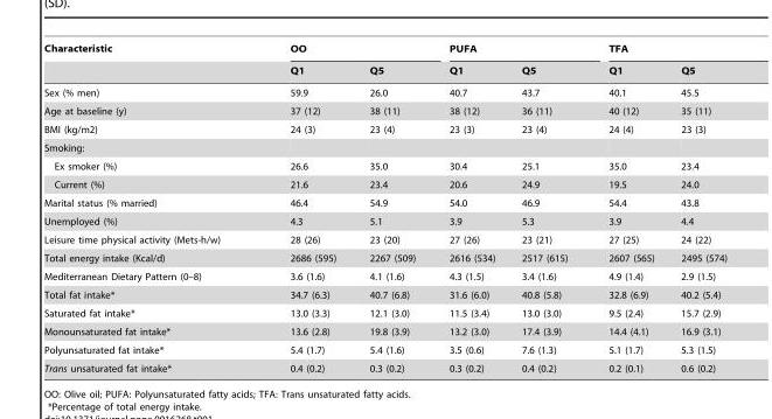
<table><thead><tr><td rowspan="2">Characteristic</td><td colspan="2">OO</td><td colspan="2">PUFA</td><td colspan="2">TFA</td></tr><tr><td>Q1</td><td>Q5</td><td>Q1</td><td>Q5</td><td>Q1</td><td>Q5</td></tr></thead><tbody><tr><td>Sex (% men)</td><td>59.9</td><td>26.0</td><td>40.7</td><td>43.7</td><td>40.1</td><td>45.5</td></tr><tr><td>Age at baseline (y)</td><td>37 (12)</td><td>38 (11)</td><td>38 (12)</td><td>36 (11)</td><td>40 (12)</td><td>35 (11)</td></tr><tr><td>BMI (kg/m2)</td><td>24 (3)</td><td>23 (4)</td><td>23 (3)</td><td>23 (4)</td><td>24 (4)</td><td>23 (3)</td></tr><tr><td colspan="7">Smoking:</td></tr><tr><td>Ex smoker (%)</td><td>26.6</td><td>35.0</td><td>30.4</td><td>25.1</td><td>35.0</td><td>23.4</td></tr><tr><td>Current (%)</td><td>21.6</td><td>23.4</td><td>20.6</td><td>24.9</td><td>19.5</td><td>24.0</td></tr><tr><td>Marital status (% married)</td><td>46.4</td><td>54.9</td><td>54.0</td><td>46.9</td><td>54.4</td><td>43.8</td></tr><tr><td>Unemployed (%)</td><td>4.3</td><td>5.1</td><td>3.9</td><td>5.3</td><td>3.9</td><td>4.4</td></tr><tr><td>Leisure time physical activity (Mets-h/w)</td><td>28 (26)</td><td>23 (20)</td><td>27 (26)</td><td>23 (21)</td><td>27 (25)</td><td>24 (22)</td></tr><tr><td>Total energy intake (Kcal/d)</td><td>2686 (595)</td><td>2267 (509)</td><td>2616 (534)</td><td>2517 (615)</td><td>2607 (565)</td><td>2495 (574)</td></tr><tr><td>Mediterranean Dietary Pattern (0–8)</td><td>3.6 (1.6)</td><td>4.1 (1.6)</td><td>4.3 (1.5)</td><td>3.4 (1.6)</td><td>4.9 (1.4)</td><td>2.9 (1.5)</td></tr><tr><td>Total fat intake*</td><td>34.7 (6.3)</td><td>40.7 (6.8)</td><td>31.6 (6.0)</td><td>40.8 (5.8)</td><td>32.8 (6.9)</td><td>40.2 (5.4)</td></tr><tr><td>Saturated fat intake*</td><td>13.0 (3.3)</td><td>12.1 (3.0)</td><td>11.5 (3.4)</td><td>13.0 (3.0)</td><td>9.5 (2.4)</td><td>15.7 (2.9)</td></tr><tr><td>Monounsaturated fat intake*</td><td>13.6 (2.8)</td><td>19.8 (3.9)</td><td>13.2 (3.0)</td><td>17.4 (3.9)</td><td>14.4 (4.1)</td><td>16.9 (3.1)</td></tr><tr><td>Polyunsaturated fat intake*</td><td>5.4 (1.7)</td><td>5.4 (1.6)</td><td>3.5 (0.6)</td><td>7.6 (1.3)</td><td>5.1 (1.7)</td><td>5.3 (1.5)</td></tr><tr><td>Trans unsaturated fat intake*</td><td>0.4 (0.2)</td><td>0.3 (0.2)</td><td>0.3 (0.2)</td><td>0.4 (0.2)</td><td>0.2 (0.1)</td><td>0.6 (0.2)</td></tr></tbody></table>